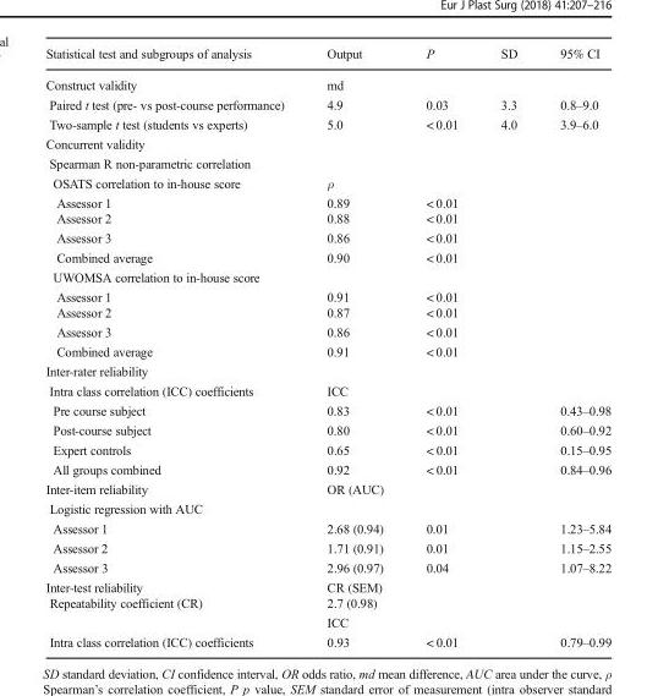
<table><thead><tr><td>Statistical test and subgroups of analysis</td><td>Output</td><td>P</td><td>SD</td><td>95% CI</td></tr></thead><tbody><tr><td>Construct validity</td><td>md</td><td></td><td></td><td></td></tr><tr><td>Paired t test (pre- vs post-course performance)</td><td>4.9</td><td>0.03</td><td>3.3</td><td>0.8–9.0</td></tr><tr><td>Two-sample t test (students vs experts)</td><td>5.0</td><td>&lt; 0.01</td><td>4.0</td><td>3.9–6.0</td></tr><tr><td colspan="5">Concurrent validity</td></tr><tr><td colspan="5">Spearman R non-parametric correlation</td></tr><tr><td>OSATS correlation to in-house score</td><td>ρ</td><td colspan="3"></td></tr><tr><td>Assessor 1</td><td>0.89</td><td>&lt; 0.01</td><td rowspan="4" colspan="2"></td></tr><tr><td>Assessor 2</td><td>0.88</td><td>&lt; 0.01</td></tr><tr><td>Assessor 3</td><td>0.86</td><td>&lt; 0.01</td></tr><tr><td>Combined average</td><td>0.90</td><td>&lt; 0.01</td></tr><tr><td colspan="5">UWOMSA correlation to in-house score</td></tr><tr><td>Assessor 1</td><td>0.91</td><td>&lt; 0.01</td><td rowspan="4" colspan="2"></td></tr><tr><td>Assessor 2</td><td>0.87</td><td>&lt; 0.01</td></tr><tr><td>Assessor 3</td><td>0.86</td><td>&lt; 0.01</td></tr><tr><td>Combined average</td><td>0.91</td><td>&lt; 0.01</td></tr><tr><td colspan="5">Inter-rater reliability</td></tr><tr><td>Intra class correlation (ICC) coefficients</td><td>ICC</td><td colspan="3"></td></tr><tr><td>Pre course subject</td><td>0.83</td><td>&lt; 0.01</td><td></td><td>0.43–0.98</td></tr><tr><td>Post-course subject</td><td>0.80</td><td>&lt; 0.01</td><td></td><td>0.60–0.92</td></tr><tr><td>Expert controls</td><td>0.65</td><td>&lt; 0.01</td><td></td><td>0.15–0.95</td></tr><tr><td>All groups combined</td><td>0.92</td><td>&lt; 0.01</td><td></td><td>0.84–0.96</td></tr><tr><td>Inter-item reliability</td><td>OR (AUC)</td><td colspan="3"></td></tr><tr><td colspan="5">Logistic regression with AUC</td></tr><tr><td>Assessor 1</td><td>2.68 (0.94)</td><td>0.01</td><td></td><td>1.23–5.84</td></tr><tr><td>Assessor 2</td><td>1.71 (0.91)</td><td>0.01</td><td></td><td>1.15–2.55</td></tr><tr><td>Assessor 3</td><td>2.96 (0.97)</td><td>0.04</td><td></td><td>1.07–8.22</td></tr><tr><td>Inter-test reliability</td><td>CR (SEM)</td><td rowspan="3" colspan="3"></td></tr><tr><td rowspan="2">Repeatability coefficient (CR)</td><td>2.7 (0.98)</td></tr><tr><td>ICC</td></tr><tr><td>Intra class correlation (ICC) coefficients</td><td>0.93</td><td>&lt; 0.01</td><td></td><td>0.79–0.99</td></tr></tbody></table>